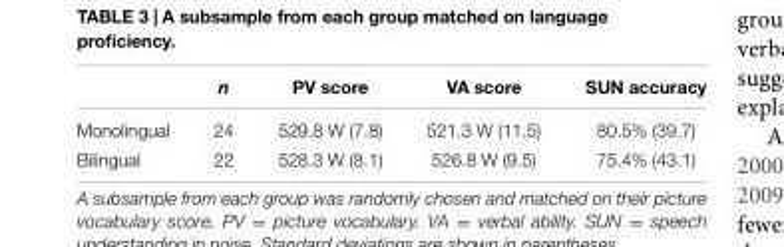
<table><thead><tr><td></td><td>n</td><td>PV score</td><td>VA score</td><td>SUN accuracy</td></tr></thead><tbody><tr><td>Monolingual</td><td>24</td><td>529.8 W (7.8)</td><td>521.3 W (11.5)</td><td>80.5% (39.7)</td></tr><tr><td>Bilingual</td><td>22</td><td>528.3 W (8.1)</td><td>526.8 W (9.5)</td><td>75.4% (43.1)</td></tr></tbody></table>